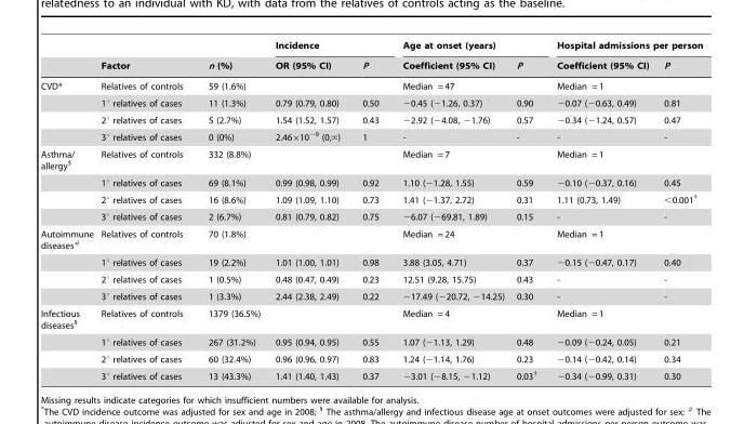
<table><thead><tr><td rowspan="2"></td><td rowspan="2">Factor</td><td rowspan="2">n (%)</td><td colspan="2">Incidence</td><td colspan="2">Age at onset (years)</td><td colspan="2">Hospital admissions per person</td></tr><tr><td>OR (95% CI)</td><td>P</td><td>Coefficient (95% CI)</td><td>P</td><td>Coefficient (95% CI)</td><td>P</td></tr></thead><tbody><tr><td rowspan="4">CVD*</td><td>Relatives of controls</td><td>59 (1.6%)</td><td></td><td></td><td>Median = 47</td><td></td><td>Median = 1</td><td></td></tr><tr><td>1° relatives of cases</td><td>11 (1.3%)</td><td>0.79 (0.79, 0.80)</td><td>0.50</td><td>−0.45 (−1.26, 0.37)</td><td>0.90</td><td>−0.07 (−0.63, 0.49)</td><td>0.81</td></tr><tr><td>2° relatives of cases</td><td>5 (2.7%)</td><td>1.54 (1.52, 1.57)</td><td>0.43</td><td>−2.92 (−4.08, −1.76)</td><td>0.57</td><td>−0.34 (−1.24, 0.57)</td><td>0.47</td></tr><tr><td>3° relatives of cases</td><td>0 (0%)</td><td>2.4661029 (0,‘)</td><td>1</td><td>-</td><td>-</td><td>-</td><td>-</td></tr><tr><td rowspan="4">Asthma/ allergy<sup>§</sup></td><td>Relatives of controls</td><td>332 (8.8%)</td><td></td><td></td><td>Median = 7</td><td></td><td>Median = 1</td><td></td></tr><tr><td>1° relatives of cases</td><td>69 (8.1%)</td><td>0.99 (0.98, 0.99)</td><td>0.92</td><td>1.10 (−1.28, 1.55)</td><td>0.59</td><td>−0.10 (−0.37, 0.16)</td><td>0.45</td></tr><tr><td>2° relatives of cases</td><td>16 (8.6%)</td><td>1.09 (1.09, 1.10)</td><td>0.73</td><td>1.41 (−1.37, 2.72)</td><td>0.31</td><td>1.11 (0.73, 1.49)</td><td>&lt;0.001<sup>†</sup></td></tr><tr><td>3° relatives of cases</td><td>2 (6.7%)</td><td>0.81 (0.79, 0.82)</td><td>0.75</td><td>−6.07 (−69.81, 1.89)</td><td>0.15</td><td>-</td><td>-</td></tr><tr><td rowspan="4">Autoimmune diseases<sup>#</sup></td><td>Relatives of controls</td><td>70 (1.8%)</td><td></td><td></td><td>Median = 24</td><td></td><td>Median = 1</td><td></td></tr><tr><td>1° relatives of cases</td><td>19 (2.2%)</td><td>1.01 (1.00, 1.01)</td><td>0.98</td><td>3.88 (3.05, 4.71)</td><td>0.37</td><td>−0.15 (−0.47, 0.17)</td><td>0.40</td></tr><tr><td>2° relatives of cases</td><td>1 (0.5%)</td><td>0.48 (0.47, 0.49)</td><td>0.23</td><td>12.51 (9.28, 15.75)</td><td>0.43</td><td>-</td><td>-</td></tr><tr><td>3° relatives of cases</td><td>1 (3.3%)</td><td>2.44 (2.38, 2.49)</td><td>0.22</td><td>−17.49 (−20.72, −14.25)</td><td>0.30</td><td>-</td><td>-</td></tr><tr><td rowspan="4">Infectious diseases<sup>§</sup></td><td>Relatives of controls</td><td>1379 (36.5%)</td><td></td><td></td><td>Median = 4</td><td></td><td>Median = 1</td><td></td></tr><tr><td>1° relatives of cases</td><td>267 (31.2%)</td><td>0.95 (0.94, 0.95)</td><td>0.55</td><td>1.07 (−1.13, 1.29)</td><td>0.48</td><td>−0.09 (−0.24, 0.05)</td><td>0.21</td></tr><tr><td>2° relatives of cases</td><td>60 (32.4%)</td><td>0.96 (0.96, 0.97)</td><td>0.83</td><td>1.24 (−1.14, 1.76)</td><td>0.23</td><td>−0.14 (−0.42, 0.14)</td><td>0.34</td></tr><tr><td>3° relatives of cases</td><td>13 (43.3%)</td><td>1.41 (1.40, 1.43)</td><td>0.37</td><td>−3.01 (−8.15, −1.12)</td><td>0.03<sup>†</sup></td><td>−0.34 (−0.99, 0.31)</td><td>0.30</td></tr></tbody></table>